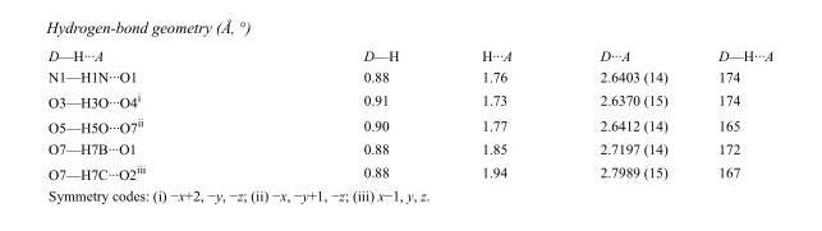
<table><tbody><tr><td>D—H···A</td><td>D—H</td><td>H···A</td><td>D···A</td><td>D—H···A</td></tr><tr><td>N1—H1N···O1</td><td>0.88</td><td>1.76</td><td>2.6403 (14)</td><td>174</td></tr><tr><td>O3—H3O···O4<sup>i</sup></td><td>0.91</td><td>1.73</td><td>2.6370 (15)</td><td>174</td></tr><tr><td>O5—H5O···O7<sup>ii</sup></td><td>0.90</td><td>1.77</td><td>2.6412 (14)</td><td>165</td></tr><tr><td>O7—H7B···O1</td><td>0.88</td><td>1.85</td><td>2.7197 (14)</td><td>172</td></tr><tr><td>O7—H7C···O2<sup>iii</sup></td><td>0.88</td><td>1.94</td><td>2.7989 (15)</td><td>167</td></tr></tbody></table>